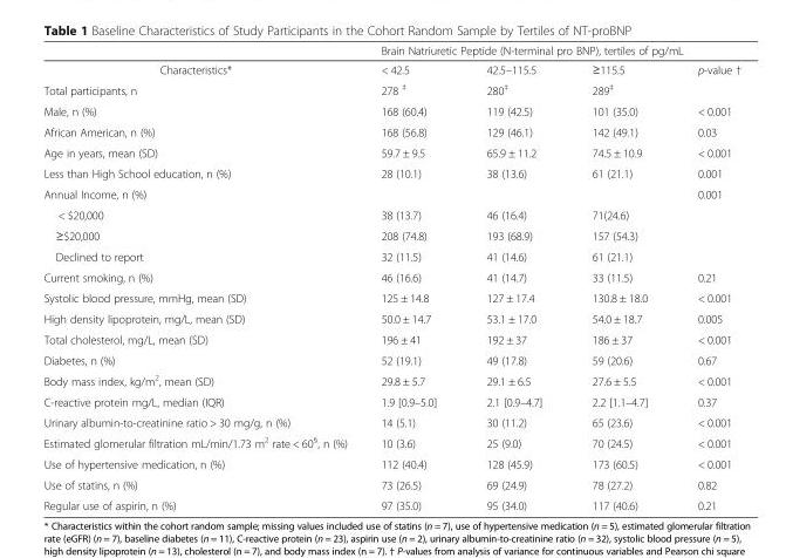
<table><thead><tr><td rowspan="2">Characteristics*</td><td colspan="4">Brain Natriuretic Peptide (N-terminal pro BNP), tertiles of pg/mL</td></tr><tr><td>&lt; 42.5</td><td>42.5–115.5</td><td>≥115.5</td><td>p-value †</td></tr></thead><tbody><tr><td>Total participants, n</td><td>278 <sup>‡</sup></td><td>280<sup>‡</sup></td><td>289<sup>‡</sup></td><td></td></tr><tr><td>Male, n (%)</td><td>168 (60.4)</td><td>119 (42.5)</td><td>101 (35.0)</td><td>&lt; 0.001</td></tr><tr><td>African American, n (%)</td><td>168 (56.8)</td><td>129 (46.1)</td><td>142 (49.1)</td><td>0.03</td></tr><tr><td>Age in years, mean (SD)</td><td>59.7 ± 9.5</td><td>65.9 ± 11.2</td><td>74.5 ± 10.9</td><td>&lt; 0.001</td></tr><tr><td>Less than High School education, n (%)</td><td>28 (10.1)</td><td>38 (13.6)</td><td>61 (21.1)</td><td>0.001</td></tr><tr><td colspan="4">Annual Income, n (%)</td><td rowspan="4">0.001</td></tr><tr><td>&lt; $20,000</td><td>38 (13.7)</td><td>46 (16.4)</td><td>71(24.6)</td></tr><tr><td>≥$20,000</td><td>208 (74.8)</td><td>193 (68.9)</td><td>157 (54.3)</td></tr><tr><td>Declined to report</td><td>32 (11.5)</td><td>41 (14.6)</td><td>61 (21.1)</td></tr><tr><td>Current smoking, n (%)</td><td>46 (16.6)</td><td>41 (14.7)</td><td>33 (11.5)</td><td>0.21</td></tr><tr><td>Systolic blood pressure, mmHg, mean (SD)</td><td>125 ± 14.8</td><td>127 ± 17.4</td><td>130.8 ± 18.0</td><td>&lt; 0.001</td></tr><tr><td>High density lipoprotein, mg/L, mean (SD)</td><td>50.0 ± 14.7</td><td>53.1 ± 17.0</td><td>54.0 ± 18.7</td><td>0.005</td></tr><tr><td>Total cholesterol, mg/L, mean (SD)</td><td>196 ± 41</td><td>192 ± 37</td><td>186 ± 37</td><td>&lt; 0.001</td></tr><tr><td>Diabetes, n (%)</td><td>52 (19.1)</td><td>49 (17.8)</td><td>59 (20.6)</td><td>0.67</td></tr><tr><td>Body mass index, kg/m<sup>2</sup>, mean (SD)</td><td>29.8 ± 5.7</td><td>29.1 ± 6.5</td><td>27.6 ± 5.5</td><td>&lt; 0.001</td></tr><tr><td>C-reactive protein mg/L, median (IQR)</td><td>1.9 [0.9–5.0]</td><td>2.1 [0.9–4.7]</td><td>2.2 [1.1–4.7]</td><td>0.37</td></tr><tr><td>Urinary albumin-to-creatinine ratio &gt; 30 mg/g, n (%)</td><td>14 (5.1)</td><td>30 (11.2)</td><td>65 (23.6)</td><td>&lt; 0.001</td></tr><tr><td>Estimated glomerular filtration mL/min/1.73 m<sup>2</sup> rate &lt; 60<sup>§</sup>, n (%)</td><td>10 (3.6)</td><td>25 (9.0)</td><td>70 (24.5)</td><td>&lt; 0.001</td></tr><tr><td>Use of hypertensive medication, n (%)</td><td>112 (40.4)</td><td>128 (45.9)</td><td>173 (60.5)</td><td>&lt; 0.001</td></tr><tr><td>Use of statins, n (%)</td><td>73 (26.5)</td><td>69 (24.9)</td><td>78 (27.2)</td><td>0.82</td></tr><tr><td>Regular use of aspirin, n (%)</td><td>97 (35.0)</td><td>95 (34.0)</td><td>117 (40.6)</td><td>0.21</td></tr></tbody></table>